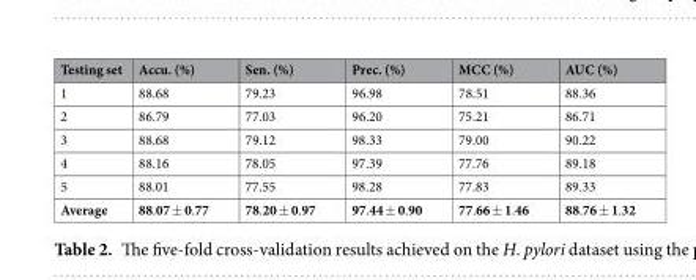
<table><thead><tr><td>Testing set</td><td>Accu. (%)</td><td>Sen. (%)</td><td>Prec. (%)</td><td>MCC (%)</td><td>AUC (%)</td></tr></thead><tbody><tr><td>1</td><td>88.68</td><td>79.23</td><td>96.98</td><td>78.51</td><td>88.36</td></tr><tr><td>2</td><td>86.79</td><td>77.03</td><td>96.20</td><td>75.21</td><td>86.71</td></tr><tr><td>3</td><td>88.68</td><td>79.12</td><td>98.33</td><td>79.00</td><td>90.22</td></tr><tr><td>4</td><td>88.16</td><td>78.05</td><td>97.39</td><td>77.76</td><td>89.18</td></tr><tr><td>5</td><td>88.01</td><td>77.55</td><td>98.28</td><td>77.83</td><td>89.33</td></tr><tr><td>Average</td><td>88.07 ± 0.77</td><td>78.20 ± 0.97</td><td>97.44 ± 0.90</td><td>77.66 ± 1.46</td><td>88.76 ± 1.32</td></tr></tbody></table>